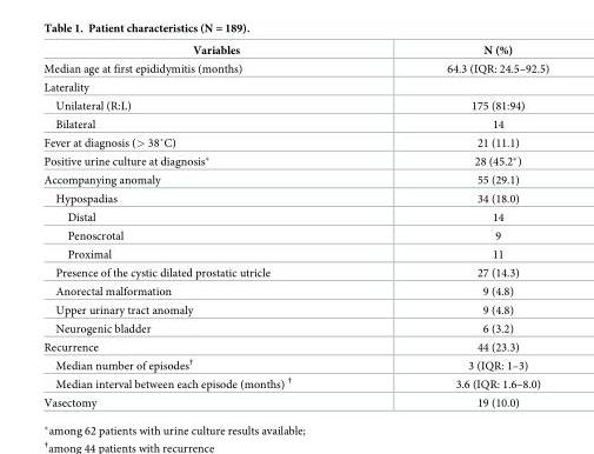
<table><thead><tr><td>Variables</td><td>N (%)</td></tr></thead><tbody><tr><td>Median age at first epididymitis (months)</td><td>64.3 (IQR: 24.5–92.5)</td></tr><tr><td colspan="2">Laterality</td></tr><tr><td>Unilateral (R:L)</td><td>175 (81:94)</td></tr><tr><td>Bilateral</td><td>14</td></tr><tr><td>Fever at diagnosis (&gt; 38˚C)</td><td>21 (11.1)</td></tr><tr><td>Positive urine culture at diagnosis*</td><td>28 (45.2*)</td></tr><tr><td>Accompanying anomaly</td><td>55 (29.1)</td></tr><tr><td>Hypospadias</td><td>34 (18.0)</td></tr><tr><td>Distal</td><td>14</td></tr><tr><td>Penoscrotal</td><td>9</td></tr><tr><td>Proximal</td><td>11</td></tr><tr><td>Presence of the cystic dilated prostatic utricle</td><td>27 (14.3)</td></tr><tr><td>Anorectal malformation</td><td>9 (4.8)</td></tr><tr><td>Upper urinary tract anomaly</td><td>9 (4.8)</td></tr><tr><td>Neurogenic bladder</td><td>6 (3.2)</td></tr><tr><td>Recurrence</td><td>44 (23.3)</td></tr><tr><td>Median number of episodes<sup>†</sup></td><td>3 (IQR: 1–3)</td></tr><tr><td>Median interval between each episode (months) <sup>†</sup></td><td>3.6 (IQR: 1.6–8.0)</td></tr><tr><td>Vasectomy</td><td>19 (10.0)</td></tr></tbody></table>